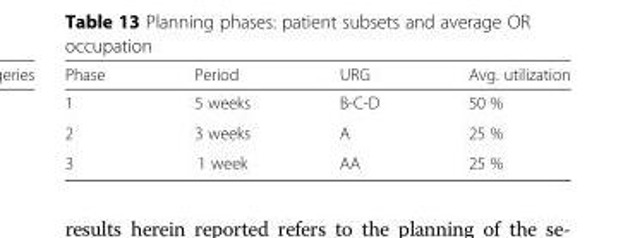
<table><thead><tr><td>Phase</td><td>Period</td><td>URG</td><td>Avg. utilization</td></tr></thead><tbody><tr><td>1</td><td>5 weeks</td><td>B-C-D</td><td>50 %</td></tr><tr><td>2</td><td>3 weeks</td><td>A</td><td>25 %</td></tr><tr><td>3</td><td>1 week</td><td>AA</td><td>25 %</td></tr></tbody></table>